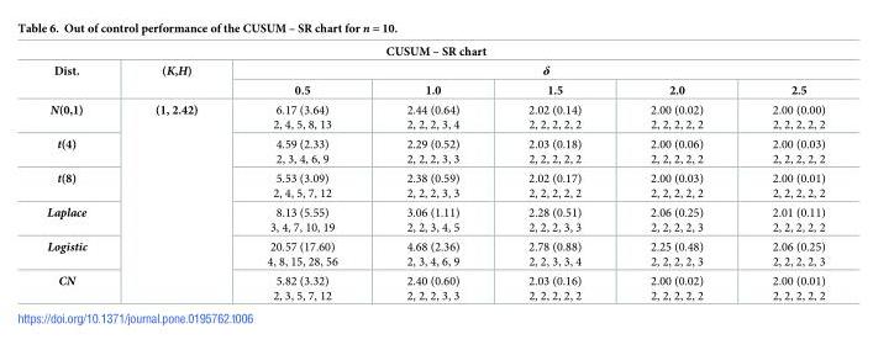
<table><thead><tr><td colspan="7">CUSUM – SR chart</td></tr><tr><td rowspan="2">Dist.</td><td rowspan="2">(K,H)</td><td colspan="5">δ</td></tr><tr><td>0.5</td><td>1.0</td><td>1.5</td><td>2.0</td><td>2.5</td></tr></thead><tbody><tr><td>N(0,1)</td><td rowspan="6">(1, 2.42)</td><td>6.17 (3.64) 2, 4, 5, 8, 13</td><td>2.44 (0.64) 2, 2, 2, 3, 4</td><td>2.02 (0.14) 2, 2, 2, 2, 2</td><td>2.00 (0.02) 2, 2, 2, 2, 2</td><td>2.00 (0.00) 2, 2, 2, 2, 2</td></tr><tr><td>t(4)</td><td>4.59 (2.33) 2, 3, 4, 6, 9</td><td>2.29 (0.52) 2, 2, 2, 3, 3</td><td>2.03 (0.18) 2, 2, 2, 2, 2</td><td>2.00 (0.06) 2, 2, 2, 2, 2</td><td>2.00 (0.03) 2, 2, 2, 2, 2</td></tr><tr><td>t(8)</td><td>5.53 (3.09) 2, 4, 5, 7, 12</td><td>2.38 (0.59) 2, 2, 2, 3, 3</td><td>2.02 (0.17) 2, 2, 2, 2, 2</td><td>2.00 (0.03) 2, 2, 2, 2, 2</td><td>2.00 (0.01) 2, 2, 2, 2, 2</td></tr><tr><td>Laplace</td><td>8.13 (5.55) 3, 4, 7, 10, 19</td><td>3.06 (1.11) 2, 2, 3, 4, 5</td><td>2.28 (0.51) 2, 2, 2, 3, 3</td><td>2.06 (0.25) 2, 2, 2, 2, 3</td><td>2.01 (0.11) 2, 2, 2, 2, 2</td></tr><tr><td>Logistic</td><td>20.57 (17.60) 4, 8, 15, 28, 56</td><td>4.68 (2.36) 2, 3, 4, 6, 9</td><td>2.78 (0.88) 2, 2, 3, 3, 4</td><td>2.25 (0.48) 2, 2, 2, 2, 3</td><td>2.06 (0.25) 2, 2, 2, 2, 3</td></tr><tr><td>CN</td><td>5.82 (3.32) 2, 3, 5, 7, 12</td><td>2.40 (0.60) 2, 2, 2, 3, 3</td><td>2.03 (0.16) 2, 2, 2, 2, 2</td><td>2.00 (0.02) 2, 2, 2, 2, 2</td><td>2.00 (0.01) 2, 2, 2, 2, 2</td></tr></tbody></table>